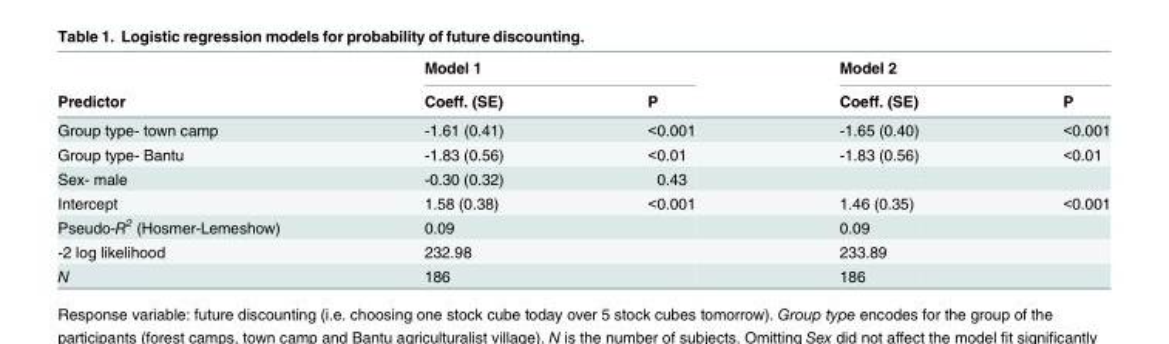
<table><thead><tr><td rowspan="2">Predictor</td><td colspan="2">Model 1</td><td colspan="2">Model 2</td></tr><tr><td>Coeff. (SE)</td><td>P</td><td>Coeff. (SE)</td><td>P</td></tr></thead><tbody><tr><td>Group type- town camp</td><td>-1.61 (0.41)</td><td>&lt;0.001</td><td>-1.65 (0.40)</td><td>&lt;0.001</td></tr><tr><td>Group type- Bantu</td><td>-1.83 (0.56)</td><td>&lt;0.01</td><td>-1.83 (0.56)</td><td>&lt;0.01</td></tr><tr><td>Sex- male</td><td>-0.30 (0.32)</td><td>0.43</td><td></td><td></td></tr><tr><td>Intercept</td><td>1.58 (0.38)</td><td>&lt;0.001</td><td>1.46 (0.35)</td><td>&lt;0.001</td></tr><tr><td>Pseudo-R<sup>2</sup> (Hosmer-Lemeshow)</td><td>0.09</td><td></td><td>0.09</td><td></td></tr><tr><td>-2 log likelihood</td><td>232.98</td><td></td><td>233.89</td><td></td></tr><tr><td>N</td><td>186</td><td></td><td>186</td><td></td></tr></tbody></table>